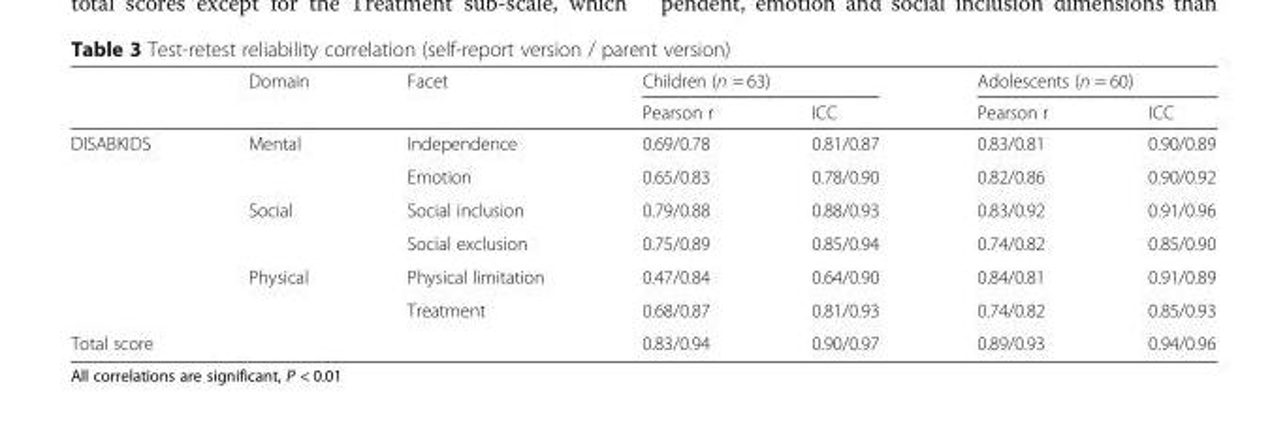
<table><thead><tr><td rowspan="2"></td><td rowspan="2">Domain</td><td rowspan="2">Facet</td><td colspan="2">Children (n = 63)</td><td colspan="2">Adolescents (n = 60)</td></tr><tr><td>Pearson r</td><td>ICC</td><td>Pearson r</td><td>ICC</td></tr></thead><tbody><tr><td rowspan="6">DISABKIDS</td><td rowspan="2">Mental</td><td>Independence</td><td>0.69/0.78</td><td>0.81/0.87</td><td>0.83/0.81</td><td>0.90/0.89</td></tr><tr><td>Emotion</td><td>0.65/0.83</td><td>0.78/0.90</td><td>0.82/0.86</td><td>0.90/0.92</td></tr><tr><td rowspan="2">Social</td><td>Social inclusion</td><td>0.79/0.88</td><td>0.88/0.93</td><td>0.83/0.92</td><td>0.91/0.96</td></tr><tr><td>Social exclusion</td><td>0.75/0.89</td><td>0.85/0.94</td><td>0.74/0.82</td><td>0.85/0.90</td></tr><tr><td rowspan="2">Physical</td><td>Physical limitation</td><td>0.47/0.84</td><td>0.64/0.90</td><td>0.84/0.81</td><td>0.91/0.89</td></tr><tr><td>Treatment</td><td>0.68/0.87</td><td>0.81/0.93</td><td>0.74/0.82</td><td>0.85/0.93</td></tr><tr><td colspan="3">Total score</td><td>0.83/0.94</td><td>0.90/0.97</td><td>0.89/0.93</td><td>0.94/0.96</td></tr></tbody></table>